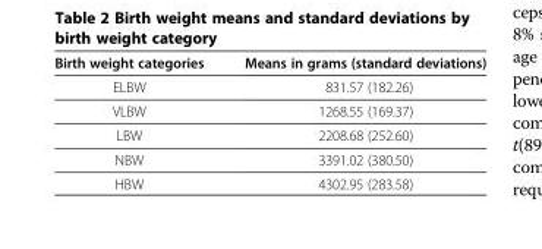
<table><thead><tr><td>Birth weight categories</td><td>Means in grams (standard deviations)</td></tr></thead><tbody><tr><td>ELBW</td><td>831.57 (182.26)</td></tr><tr><td>VLBW</td><td>1268.55 (169.37)</td></tr><tr><td>LBW</td><td>2208.68 (252.60)</td></tr><tr><td>NBW</td><td>3391.02 (380.50)</td></tr><tr><td>HBW</td><td>4302.95 (283.58)</td></tr></tbody></table>